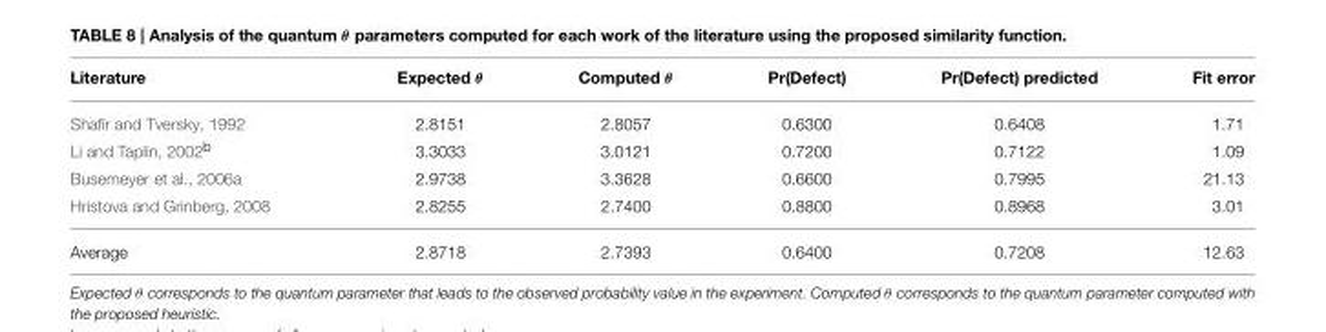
<table><thead><tr><td>Literature</td><td>Expected θ</td><td>Computed θ</td><td>Pr(Defect)</td><td>Pr(Defect) predicted</td><td>Fit error</td></tr></thead><tbody><tr><td>Shafir and Tversky, 1992</td><td>2.8151</td><td>2.8057</td><td>0.6300</td><td>0.6408</td><td>1.71</td></tr><tr><td>Li and Taplin, 2002<sup>b</sup></td><td>3.3033</td><td>3.0121</td><td>0.7200</td><td>0.7122</td><td>1.09</td></tr><tr><td>Busemeyer et al., 2006a</td><td>2.9738</td><td>3.3628</td><td>0.6600</td><td>0.7995</td><td>21.13</td></tr><tr><td>Hristova and Grinberg, 2008</td><td>2.8255</td><td>2.7400</td><td>0.8800</td><td>0.8968</td><td>3.01</td></tr><tr><td>Average</td><td>2.8718</td><td>2.7393</td><td>0.6400</td><td>0.7208</td><td>12.63</td></tr></tbody></table>